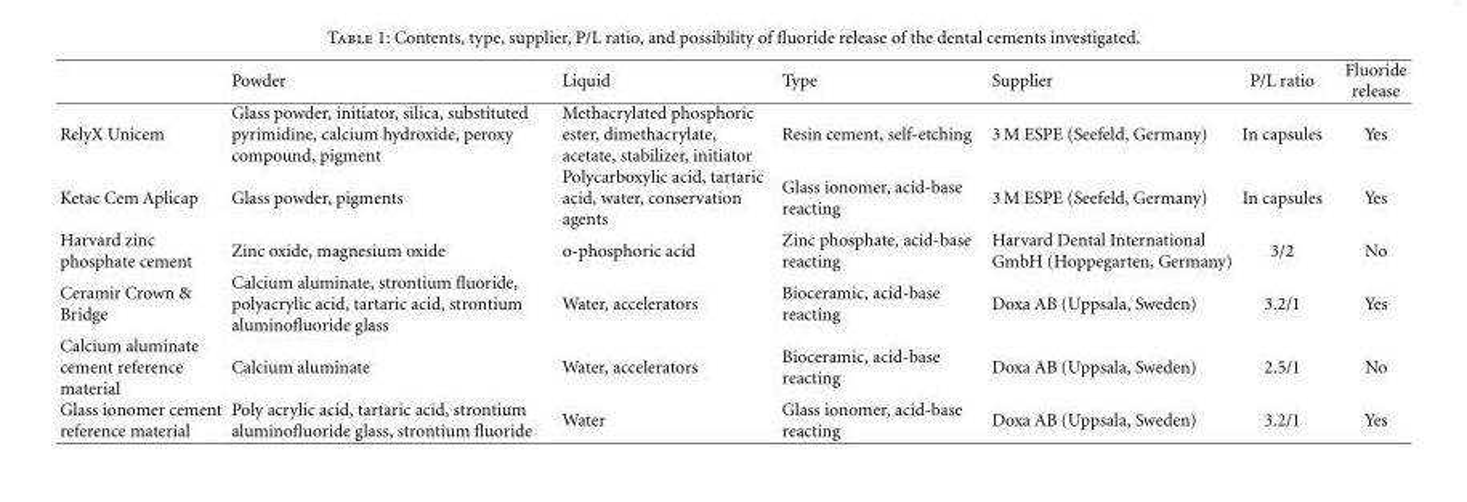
<table><thead><tr><td></td><td>Powder</td><td>Liquid</td><td>Type</td><td>Supplier</td><td>P/L ratio</td><td>Fluoride release</td></tr></thead><tbody><tr><td>RelyX Unicem</td><td>Glass powder, initiator, silica, substituted pyrimidine, calcium hydroxide, peroxy compound, pigment</td><td>Methacrylated phosphoric ester, dimethacrylate, acetate, stabilizer, initiator</td><td>Resin cement, self-etching</td><td>3 M ESPE (Seefeld, Germany)</td><td>In capsules</td><td>Yes</td></tr><tr><td>Ketac Cem Aplicap</td><td>Glass powder, pigments</td><td>Polycarboxylic acid, tartaric acid, water, conservation agents</td><td>Glass ionomer, acid-base reacting</td><td>3 M ESPE (Seefeld, Germany)</td><td>In capsules</td><td>Yes</td></tr><tr><td>Harvard zinc phosphate cement</td><td>Zinc oxide, magnesium oxide</td><td>o-phosphoric acid</td><td>Zinc phosphate, acid-base reacting</td><td>Harvard Dental International GmbH (Hoppegarten, Germany)</td><td>3/2</td><td>No</td></tr><tr><td>Ceramir Crown &amp; Bridge</td><td>Calcium aluminate, strontium fluoride, polyacrylic acid, tartaric acid, strontium aluminofluoride glass</td><td>Water, accelerators</td><td>Bioceramic, acid-base reacting</td><td>Doxa AB (Uppsala, Sweden)</td><td>3.2/1</td><td>Yes</td></tr><tr><td>Calcium aluminate cement reference material</td><td>Calcium aluminate</td><td>Water, accelerators</td><td>Bioceramic, acid-base reacting</td><td>Doxa AB (Uppsala, Sweden)</td><td>2.5/1</td><td>No</td></tr><tr><td>Glass ionomer cement reference material</td><td>Poly acrylic acid, tartaric acid, strontium aluminofluoride glass, strontium fluoride</td><td>Water</td><td>Glass ionomer, acid-base reacting</td><td>Doxa AB (Uppsala, Sweden)</td><td>3.2/1</td><td>Yes</td></tr></tbody></table>